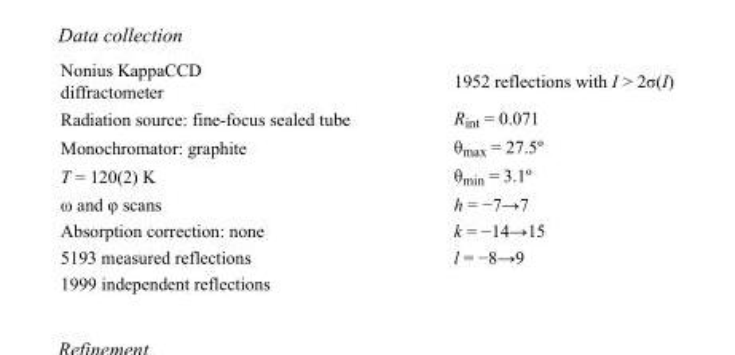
<table><tbody><tr><td>Nonius KappaCCD diffractometer</td><td>1952 reflections with I &gt; 2σ(I)</td></tr><tr><td>Radiation source: fine-focus sealed tube</td><td>R<sub>int</sub> = 0.071</td></tr><tr><td>Monochromator: graphite</td><td>θ<sub>max</sub> = 27.5º</td></tr><tr><td>T = 120(2) K</td><td>θ<sub>min</sub> = 3.1º</td></tr><tr><td>ω and φ scans</td><td>h = −7→7</td></tr><tr><td>Absorption correction: none</td><td>k = −14→15</td></tr><tr><td>5193 measured reflections</td><td>l = −8→9</td></tr><tr><td>1999 independent reflections</td><td></td></tr></tbody></table>